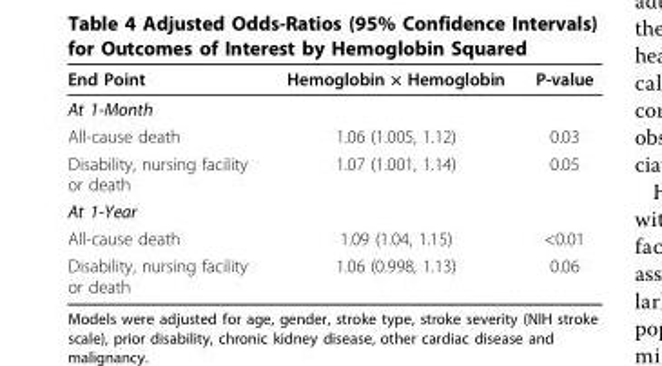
<table><thead><tr><td>End Point</td><td>Hemoglobin × Hemoglobin</td><td>P-value</td></tr></thead><tbody><tr><td colspan="3">At 1-Month</td></tr><tr><td>All-cause death</td><td>1.06 (1.005, 1.12)</td><td>0.03</td></tr><tr><td>Disability, nursing facility or death</td><td>1.07 (1.001, 1.14)</td><td>0.05</td></tr><tr><td colspan="3">At 1-Year</td></tr><tr><td>All-cause death</td><td>1.09 (1.04, 1.15)</td><td>&lt;0.01</td></tr><tr><td>Disability, nursing facility or death</td><td>1.06 (0.998, 1.13)</td><td>0.06</td></tr></tbody></table>